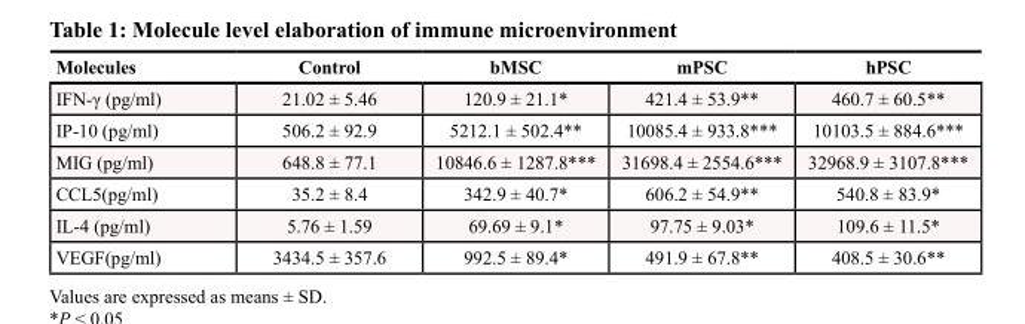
<table><thead><tr><td>Molecules</td><td>Control</td><td>bMSC</td><td>mPSC</td><td>hPSC</td></tr></thead><tbody><tr><td>IFN-γ (pg/ml)</td><td>21.02 ± 5.46</td><td>120.9 ± 21.1 *</td><td>421.4 ± 53.9 **</td><td>460.7 ± 60.5 **</td></tr><tr><td>IP-10 (pg/ml)</td><td>506.2 ± 92.9</td><td>5212.1 ± 502.4 **</td><td>10085.4 ± 933.8 ***</td><td>10103.5 ± 884.6 ***</td></tr><tr><td>MIG (pg/ml)</td><td>648.8 ± 77.1</td><td>10846.6 ± 1287.8 ***</td><td>31698.4 ± 2554.6 ***</td><td>32968.9 ± 3107.8 ***</td></tr><tr><td>CCL5(pg/ml)</td><td>35.2 ± 8.4</td><td>342.9 ± 40.7 *</td><td>606.2 ± 54.9 **</td><td>540.8 ± 83.9 *</td></tr><tr><td>IL-4 (pg/ml)</td><td>5.76 ± 1.59</td><td>69.69 ± 9.1 *</td><td>97.75 ± 9.03 *</td><td>109.6 ± 11.5 *</td></tr><tr><td>VEGF(pg/ml)</td><td>3434.5 ± 357.6</td><td>992.5 ± 89.4 *</td><td>491.9 ± 67.8 **</td><td>408.5 ± 30.6 **</td></tr></tbody></table>